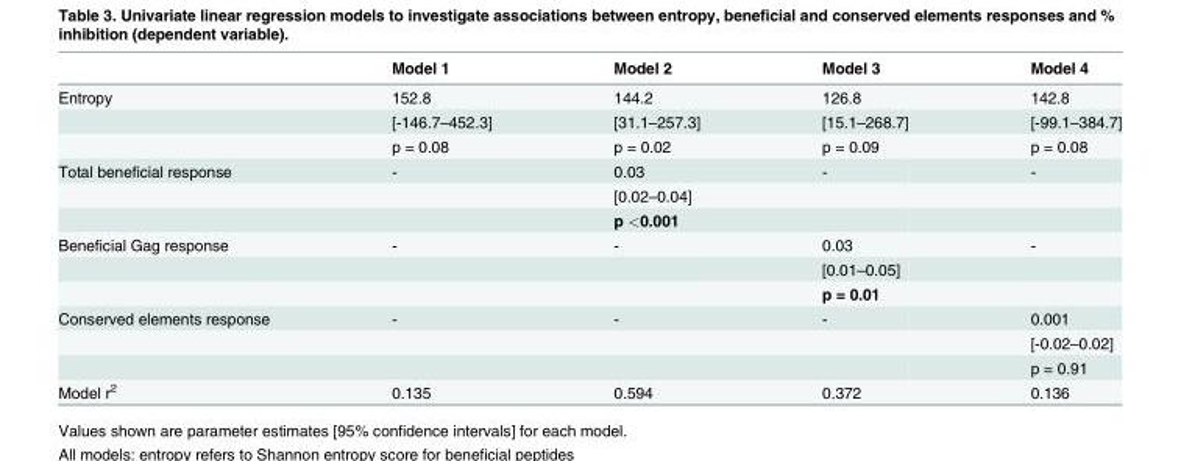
<table><thead><tr><td></td><td>Model 1</td><td>Model 2</td><td>Model 3</td><td>Model 4</td></tr></thead><tbody><tr><td rowspan="3">Entropy</td><td>152.8</td><td>144.2</td><td>126.8</td><td>142.8</td></tr><tr><td>[-146.7–452.3]</td><td>[31.1–257.3]</td><td>[15.1–268.7]</td><td>[-99.1–384.7]</td></tr><tr><td>p = 0.08</td><td>p = 0.02</td><td>p = 0.09</td><td>p = 0.08</td></tr><tr><td rowspan="3">Total beneficial response</td><td>-</td><td>0.03</td><td>-</td><td>-</td></tr><tr><td></td><td>[0.02–0.04]</td><td></td><td></td></tr><tr><td></td><td>p &lt;0.001</td><td></td><td></td></tr><tr><td rowspan="3">Beneficial Gag response</td><td>-</td><td>-</td><td>0.03</td><td>-</td></tr><tr><td></td><td></td><td>[0.01–0.05]</td><td></td></tr><tr><td></td><td></td><td>p = 0.01</td><td></td></tr><tr><td rowspan="3">Conserved elements response</td><td>-</td><td>-</td><td>-</td><td>0.001</td></tr><tr><td></td><td></td><td></td><td>[-0.02–0.02]</td></tr><tr><td></td><td></td><td></td><td>p = 0.91</td></tr><tr><td>Model r<sup>2</sup></td><td>0.135</td><td>0.594</td><td>0.372</td><td>0.136</td></tr></tbody></table>